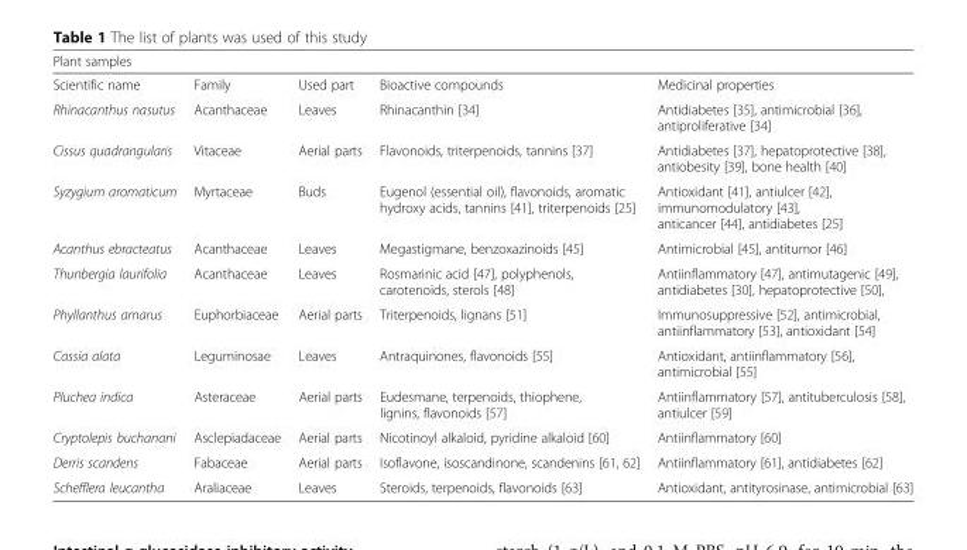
<table><thead><tr><td colspan="5">Plant samples</td></tr><tr><td>Scientific name</td><td>Family</td><td>Used part</td><td>Bioactive compounds</td><td>Medicinal properties</td></tr></thead><tbody><tr><td>Rhinacanthus nasutus</td><td>Acanthaceae</td><td>Leaves</td><td>Rhinacanthin [34]</td><td>Antidiabetes [35], antimicrobial [36], antiproliferative [34]</td></tr><tr><td>Cissus quadrangularis</td><td>Vitaceae</td><td>Aerial parts</td><td>Flavonoids, triterpenoids, tannins [37]</td><td>Antidiabetes [37], hepatoprotective [38], antiobesity [39], bone health [40]</td></tr><tr><td>Syzygium aromaticum</td><td>Myrtaceae</td><td>Buds</td><td>Eugenol (essential oil), flavonoids, aromatic hydroxy acids, tannins [41], triterpenoids [25]</td><td>Antioxidant [41], antiulcer [42], immunomodulatory [43], anticancer [44], antidiabetes [25]</td></tr><tr><td>Acanthus ebracteatus</td><td>Acanthaceae</td><td>Leaves</td><td>Megastigmane, benzoxazinoids [45]</td><td>Antimicrobial [45], antitumor [46]</td></tr><tr><td>Thunbergia laurifolia</td><td>Acanthaceae</td><td>Leaves</td><td>Rosmarinic acid [47], polyphenols, carotenoids, sterols [48]</td><td>Antiinflammatory [47], antimutagenic [49], antidiabetes [30], hepatoprotective [50],</td></tr><tr><td>Phyllanthus amarus</td><td>Euphorbiaceae</td><td>Aerial parts</td><td>Triterpenoids, lignans [51]</td><td>Immunosuppressive [52], antimicrobial, antiinflammatory [53], antioxidant [54]</td></tr><tr><td>Cassia alata</td><td>Leguminosae</td><td>Leaves</td><td>Antraquinones, flavonoids [55]</td><td>Antioxidant, antiinflammatory [56], antimicrobial [55]</td></tr><tr><td>Pluchea indica</td><td>Asteraceae</td><td>Aerial parts</td><td>Eudesmane, terpenoids, thiophene, lignins, flavonoids [57]</td><td>Antiinflammatory [57], antituberculosis [58], antiulcer [59]</td></tr><tr><td>Cryptolepis buchanani</td><td>Asclepiadaceae</td><td>Aerial parts</td><td>Nicotinoyl alkaloid, pyridine alkaloid [60]</td><td>Antiinflammatory [60]</td></tr><tr><td>Derris scandens</td><td>Fabaceae</td><td>Aerial parts</td><td>Isoflavone, isoscandinone, scandenins [61, 62]</td><td>Antiinflammatory [61], antidiabetes [62]</td></tr><tr><td>Schefflera leucantha</td><td>Araliaceae</td><td>Leaves</td><td>Steroids, terpenoids, flavonoids [63]</td><td>Antioxidant, antityrosinase, antimicrobial [63]</td></tr></tbody></table>